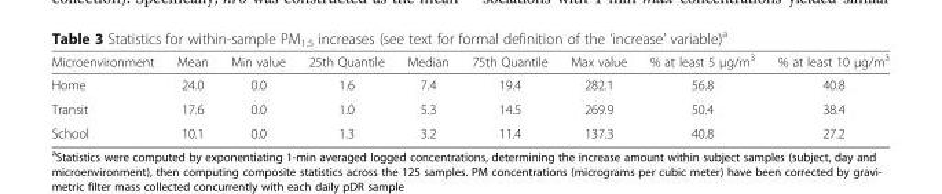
<table><thead><tr><td>Microenvironment</td><td>Mean</td><td>Min value</td><td>25th Quantile</td><td>Median</td><td>75th Quantile</td><td>Max value</td><td>% at least 5 μg/m<sup>3</sup></td><td>% at least 10 μg/m<sup>3</sup></td></tr></thead><tbody><tr><td>Home</td><td>24.0</td><td>0.0</td><td>1.6</td><td>7.4</td><td>19.4</td><td>282.1</td><td>56.8</td><td>40.8</td></tr><tr><td>Transit</td><td>17.6</td><td>0.0</td><td>1.0</td><td>5.3</td><td>14.5</td><td>269.9</td><td>50.4</td><td>38.4</td></tr><tr><td>School</td><td>10.1</td><td>0.0</td><td>1.3</td><td>3.2</td><td>11.4</td><td>137.3</td><td>40.8</td><td>27.2</td></tr></tbody></table>